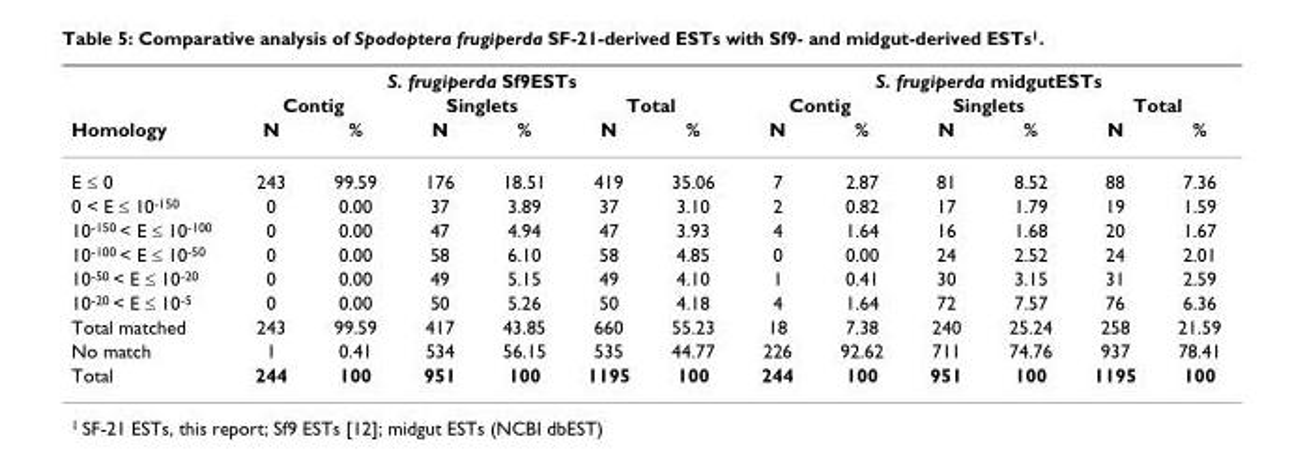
<table><thead><tr><td rowspan="3">Homology</td><td colspan="6">S. frugiperda Sf9ESTs</td><td colspan="6">S. frugiperda midgutESTs</td></tr><tr><td colspan="2">Contig</td><td colspan="2">Singlets</td><td colspan="2">Total</td><td colspan="2">Contig</td><td colspan="2">Singlets</td><td colspan="2">Total</td></tr><tr><td>N</td><td>%</td><td>N</td><td>%</td><td>N</td><td>%</td><td>N</td><td>%</td><td>N</td><td>%</td><td>N</td><td>%</td></tr></thead><tbody><tr><td>E ≤ 0</td><td>243</td><td>99.59</td><td>176</td><td>18.51</td><td>419</td><td>35.06</td><td>7</td><td>2.87</td><td>81</td><td>8.52</td><td>88</td><td>7.36</td></tr><tr><td>0 &lt; E ≤ 10-150</td><td>0</td><td>0.00</td><td>37</td><td>3.89</td><td>37</td><td>3.10</td><td>2</td><td>0.82</td><td>17</td><td>1.79</td><td>19</td><td>1.59</td></tr><tr><td>10-150 &lt; E ≤ 10-100</td><td>0</td><td>0.00</td><td>47</td><td>4.94</td><td>47</td><td>3.93</td><td>4</td><td>1.64</td><td>16</td><td>1.68</td><td>20</td><td>1.67</td></tr><tr><td>10-100 &lt; E ≤ 10-50</td><td>0</td><td>0.00</td><td>58</td><td>6.10</td><td>58</td><td>4.85</td><td>0</td><td>0.00</td><td>24</td><td>2.52</td><td>24</td><td>2.01</td></tr><tr><td>10-50 &lt; E ≤ 10-20</td><td>0</td><td>0.00</td><td>49</td><td>5.15</td><td>49</td><td>4.10</td><td>1</td><td>0.41</td><td>30</td><td>3.15</td><td>31</td><td>2.59</td></tr><tr><td>10-20 &lt; E ≤ 10-5</td><td>0</td><td>0.00</td><td>50</td><td>5.26</td><td>50</td><td>4.18</td><td>4</td><td>1.64</td><td>72</td><td>7.57</td><td>76</td><td>6.36</td></tr><tr><td>Total matched</td><td>243</td><td>99.59</td><td>417</td><td>43.85</td><td>660</td><td>55.23</td><td>18</td><td>7.38</td><td>240</td><td>25.24</td><td>258</td><td>21.59</td></tr><tr><td>No match</td><td>1</td><td>0.41</td><td>534</td><td>56.15</td><td>535</td><td>44.77</td><td>226</td><td>92.62</td><td>711</td><td>74.76</td><td>937</td><td>78.41</td></tr><tr><td>Total</td><td>244</td><td>100</td><td>951</td><td>100</td><td>1195</td><td>100</td><td>244</td><td>100</td><td>951</td><td>100</td><td>1195</td><td>100</td></tr></tbody></table>